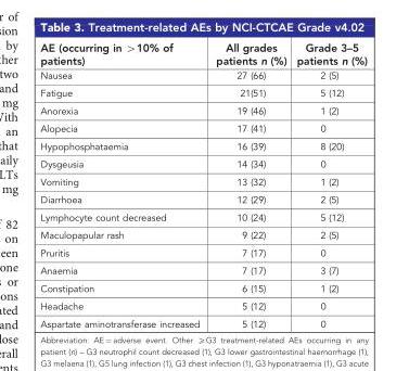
<table><thead><tr><td>AE (occurring in &gt;10% of patients)</td><td>All grades patients n (%)</td><td>Grade 3–5 patients n (%)</td></tr></thead><tbody><tr><td>Nausea</td><td>27 (66)</td><td>2 (5)</td></tr><tr><td>Fatigue</td><td>21(51)</td><td>5 (12)</td></tr><tr><td>Anorexia</td><td>19 (46)</td><td>1 (2)</td></tr><tr><td>Alopecia</td><td>17 (41)</td><td>0</td></tr><tr><td>Hypophosphataemia</td><td>16 (39)</td><td>8 (20)</td></tr><tr><td>Dysgeusia</td><td>14 (34)</td><td>0</td></tr><tr><td>Vomiting</td><td>13 (32)</td><td>1 (2)</td></tr><tr><td>Diarrhoea</td><td>12 (29)</td><td>2 (5)</td></tr><tr><td>Lymphocyte count decreased</td><td>10 (24)</td><td>5 (12)</td></tr><tr><td>Maculopapular rash</td><td>9 (22)</td><td>2 (5)</td></tr><tr><td>Pruritis</td><td>7 (17)</td><td>0</td></tr><tr><td>Anaemia</td><td>7 (17)</td><td>3 (7)</td></tr><tr><td>Constipation</td><td>6 (15)</td><td>1 (2)</td></tr><tr><td>Headache</td><td>5 (12)</td><td>0</td></tr><tr><td>Aspartate aminotransferase increased</td><td>5 (12)</td><td>0</td></tr></tbody></table>